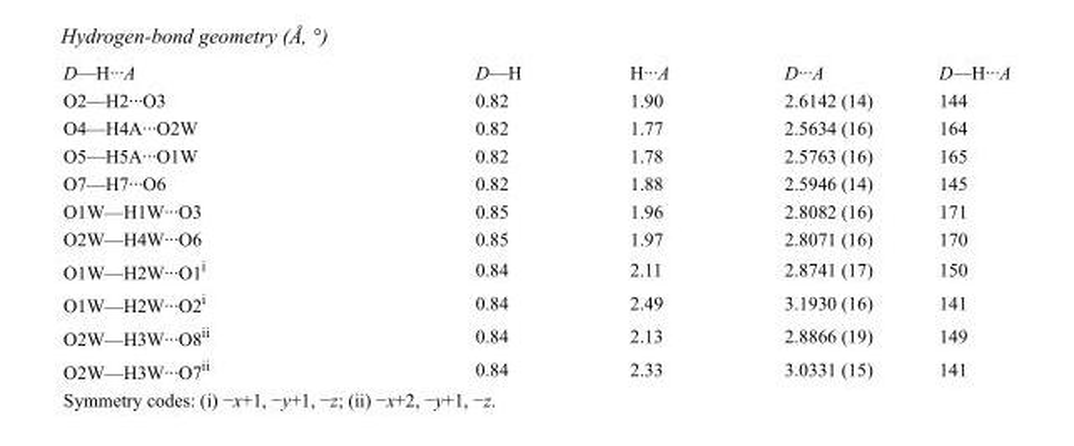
<table><tbody><tr><td>D—H···A</td><td>D—H</td><td>H···A</td><td>D···A</td><td>D—H···A</td></tr><tr><td>O2—H2···O3</td><td>0.82</td><td>1.90</td><td>2.6142 (14)</td><td>144</td></tr><tr><td>O4—H4A···O2W</td><td>0.82</td><td>1.77</td><td>2.5634 (16)</td><td>164</td></tr><tr><td>O5—H5A···O1W</td><td>0.82</td><td>1.78</td><td>2.5763 (16)</td><td>165</td></tr><tr><td>O7—H7···O6</td><td>0.82</td><td>1.88</td><td>2.5946 (14)</td><td>145</td></tr><tr><td>O1W—H1W···O3</td><td>0.85</td><td>1.96</td><td>2.8082 (16)</td><td>171</td></tr><tr><td>O2W—H4W···O6</td><td>0.85</td><td>1.97</td><td>2.8071 (16)</td><td>170</td></tr><tr><td>O1W—H2W···O1<sup>i</sup></td><td>0.84</td><td>2.11</td><td>2.8741 (17)</td><td>150</td></tr><tr><td>O1W—H2W···O2<sup>i</sup></td><td>0.84</td><td>2.49</td><td>3.1930 (16)</td><td>141</td></tr><tr><td>O2W—H3W···O8<sup>ii</sup></td><td>0.84</td><td>2.13</td><td>2.8866 (19)</td><td>149</td></tr><tr><td>O2W—H3W···O7<sup>ii</sup></td><td>0.84</td><td>2.33</td><td>3.0331 (15)</td><td>141</td></tr></tbody></table>